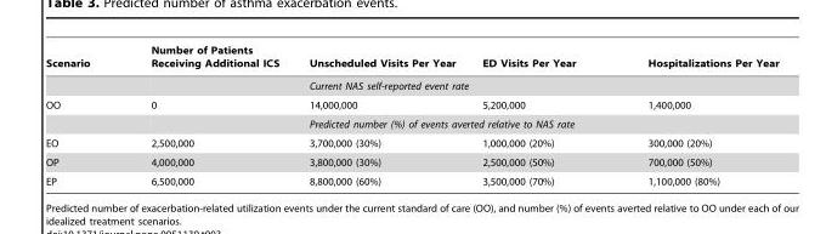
<table><thead><tr><td>Scenario</td><td>Number of Patients Receiving Additional ICS</td><td>Unscheduled Visits Per Year</td><td>ED Visits Per Year</td><td>Hospitalizations Per Year</td></tr></thead><tbody><tr><td></td><td></td><td colspan="3">Current NAS self-reported event rate</td></tr><tr><td rowspan="2">OO</td><td>0</td><td>14,000,000</td><td>5,200,000</td><td>1,400,000</td></tr><tr><td></td><td colspan="3">Predicted number (%) of events averted relative to NAS rate</td></tr><tr><td>EO</td><td>2,500,000</td><td>3,700,000 (30%)</td><td>1,000,000 (20%)</td><td>300,000 (20%)</td></tr><tr><td>OP</td><td>4,000,000</td><td>3,800,000 (30%)</td><td>2,500,000 (50%)</td><td>700,000 (50%)</td></tr><tr><td>EP</td><td>6,500,000</td><td>8,800,000 (60%)</td><td>3,500,000 (70%)</td><td>1,100,000 (80%)</td></tr></tbody></table>